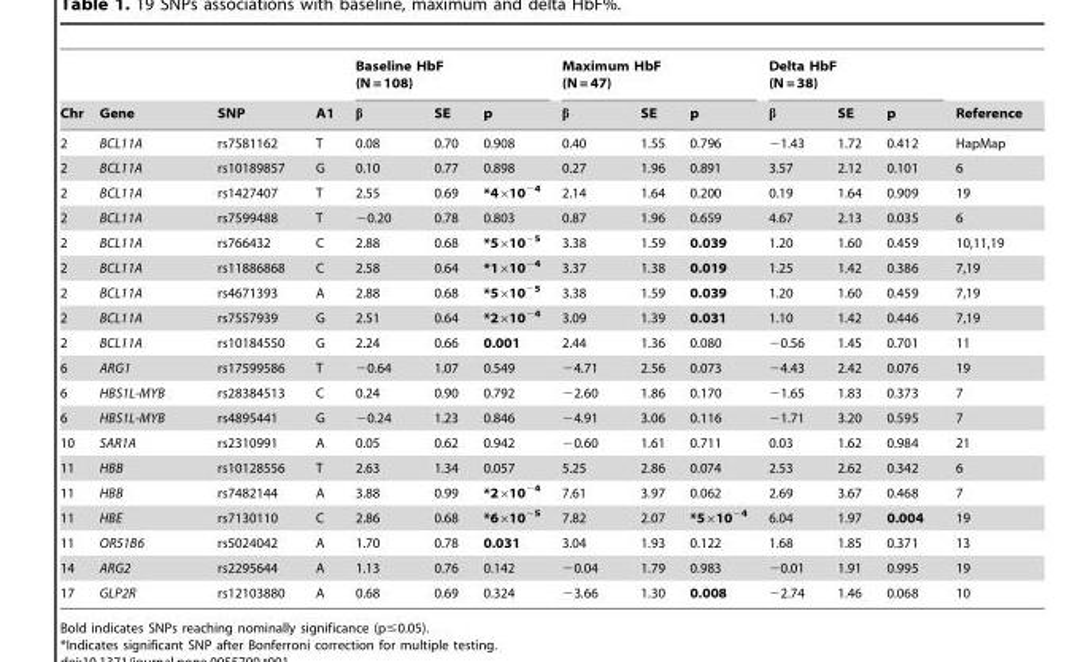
<table><thead><tr><td rowspan="2">Chr</td><td rowspan="2">Gene</td><td rowspan="2">SNP</td><td rowspan="2">A1</td><td colspan="3">Baseline HbF (N = 108)</td><td colspan="3">Maximum HbF (N = 47)</td><td colspan="3">Delta HbF (N = 38)</td><td rowspan="2">Reference</td></tr><tr><td>β</td><td>SE</td><td>p</td><td>β</td><td>SE</td><td>p</td><td>β</td><td>SE</td><td>p</td></tr></thead><tbody><tr><td>2</td><td>BCL11A</td><td>rs7581162</td><td>T</td><td>0.08</td><td>0.70</td><td>0.908</td><td>0.40</td><td>1.55</td><td>0.796</td><td>−1.43</td><td>1.72</td><td>0.412</td><td>HapMap</td></tr><tr><td>2</td><td>BCL11A</td><td>rs10189857</td><td>G</td><td>0.10</td><td>0.77</td><td>0.898</td><td>0.27</td><td>1.96</td><td>0.891</td><td>3.57</td><td>2.12</td><td>0.101</td><td>6</td></tr><tr><td>2</td><td>BCL11A</td><td>rs1427407</td><td>T</td><td>2.55</td><td>0.69</td><td>*4×10<sup>−4</sup></td><td>2.14</td><td>1.64</td><td>0.200</td><td>0.19</td><td>1.64</td><td>0.909</td><td>19</td></tr><tr><td>2</td><td>BCL11A</td><td>rs7599488</td><td>T</td><td>−0.20</td><td>0.78</td><td>0.803</td><td>0.87</td><td>1.96</td><td>0.659</td><td>4.67</td><td>2.13</td><td>0.035</td><td>6</td></tr><tr><td>2</td><td>BCL11A</td><td>rs766432</td><td>C</td><td>2.88</td><td>0.68</td><td>*5×10<sup>−5</sup></td><td>3.38</td><td>1.59</td><td>0.039</td><td>1.20</td><td>1.60</td><td>0.459</td><td>10,11,19</td></tr><tr><td>2</td><td>BCL11A</td><td>rs11886868</td><td>C</td><td>2.58</td><td>0.64</td><td>*1×10<sup>−4</sup></td><td>3.37</td><td>1.38</td><td>0.019</td><td>1.25</td><td>1.42</td><td>0.386</td><td>7,19</td></tr><tr><td>2</td><td>BCL11A</td><td>rs4671393</td><td>A</td><td>2.88</td><td>0.68</td><td>*5×10<sup>−5</sup></td><td>3.38</td><td>1.59</td><td>0.039</td><td>1.20</td><td>1.60</td><td>0.459</td><td>7,19</td></tr><tr><td>2</td><td>BCL11A</td><td>rs7557939</td><td>G</td><td>2.51</td><td>0.64</td><td>*2×10<sup>−4</sup></td><td>3.09</td><td>1.39</td><td>0.031</td><td>1.10</td><td>1.42</td><td>0.446</td><td>7,19</td></tr><tr><td>2</td><td>BCL11A</td><td>rs10184550</td><td>G</td><td>2.24</td><td>0.66</td><td>0.001</td><td>2.44</td><td>1.36</td><td>0.080</td><td>−0.56</td><td>1.45</td><td>0.701</td><td>11</td></tr><tr><td>6</td><td>ARG1</td><td>rs17599586</td><td>T</td><td>−0.64</td><td>1.07</td><td>0.549</td><td>−4.71</td><td>2.56</td><td>0.073</td><td>−4.43</td><td>2.42</td><td>0.076</td><td>19</td></tr><tr><td>6</td><td>HBS1L-MYB</td><td>rs28384513</td><td>C</td><td>0.24</td><td>0.90</td><td>0.792</td><td>−2.60</td><td>1.86</td><td>0.170</td><td>−1.65</td><td>1.83</td><td>0.373</td><td>7</td></tr><tr><td>6</td><td>HBS1L-MYB</td><td>rs4895441</td><td>G</td><td>−0.24</td><td>1.23</td><td>0.846</td><td>−4.91</td><td>3.06</td><td>0.116</td><td>−1.71</td><td>3.20</td><td>0.595</td><td>7</td></tr><tr><td>10</td><td>SAR1A</td><td>rs2310991</td><td>A</td><td>0.05</td><td>0.62</td><td>0.942</td><td>−0.60</td><td>1.61</td><td>0.711</td><td>0.03</td><td>1.62</td><td>0.984</td><td>21</td></tr><tr><td>11</td><td>HBB</td><td>rs10128556</td><td>T</td><td>2.63</td><td>1.34</td><td>0.057</td><td>5.25</td><td>2.86</td><td>0.074</td><td>2.53</td><td>2.62</td><td>0.342</td><td>6</td></tr><tr><td>11</td><td>HBB</td><td>rs7482144</td><td>A</td><td>3.88</td><td>0.99</td><td>*2×10<sup>−4</sup></td><td>7.61</td><td>3.97</td><td>0.062</td><td>2.69</td><td>3.67</td><td>0.468</td><td>7</td></tr><tr><td>11</td><td>HBE</td><td>rs7130110</td><td>C</td><td>2.86</td><td>0.68</td><td>*6×10<sup>−5</sup></td><td>7.82</td><td>2.07</td><td>*5×10<sup>−4</sup></td><td>6.04</td><td>1.97</td><td>0.004</td><td>19</td></tr><tr><td>11</td><td>OR51B6</td><td>rs5024042</td><td>A</td><td>1.70</td><td>0.78</td><td>0.031</td><td>3.04</td><td>1.93</td><td>0.122</td><td>1.68</td><td>1.85</td><td>0.371</td><td>13</td></tr><tr><td>14</td><td>ARG2</td><td>rs2295644</td><td>A</td><td>1.13</td><td>0.76</td><td>0.142</td><td>−0.04</td><td>1.79</td><td>0.983</td><td>−0.01</td><td>1.91</td><td>0.995</td><td>19</td></tr><tr><td>17</td><td>GLP2R</td><td>rs12103880</td><td>A</td><td>0.68</td><td>0.69</td><td>0.324</td><td>−3.66</td><td>1.30</td><td>0.008</td><td>−2.74</td><td>1.46</td><td>0.068</td><td>10</td></tr></tbody></table>